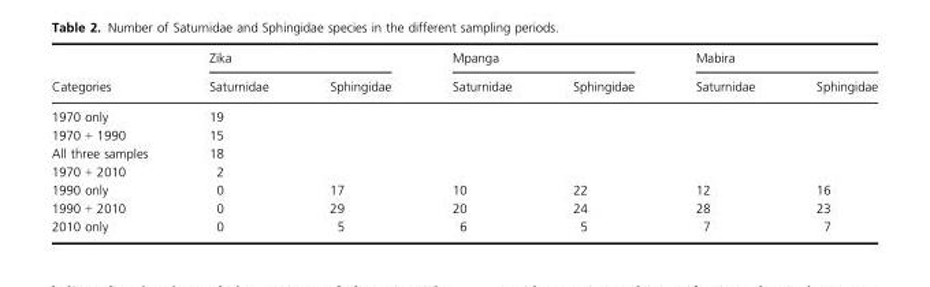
<table><thead><tr><td rowspan="2">Categories</td><td colspan="2">Zika</td><td colspan="2">Mpanga</td><td colspan="2">Mabira</td></tr><tr><td>Saturnidae</td><td>Sphingidae</td><td>Saturnidae</td><td>Sphingidae</td><td>Saturnidae</td><td>Sphingidae</td></tr></thead><tbody><tr><td>1970 only</td><td>19</td><td></td><td></td><td></td><td></td><td></td></tr><tr><td>1970 + 1990</td><td>15</td><td></td><td></td><td></td><td></td><td></td></tr><tr><td>All three samples</td><td>18</td><td></td><td></td><td></td><td></td><td></td></tr><tr><td>1970 + 2010</td><td>2</td><td></td><td></td><td></td><td></td><td></td></tr><tr><td>1990 only</td><td>0</td><td>17</td><td>10</td><td>22</td><td>12</td><td>16</td></tr><tr><td>1990 + 2010</td><td>0</td><td>29</td><td>20</td><td>24</td><td>28</td><td>23</td></tr><tr><td>2010 only</td><td>0</td><td>5</td><td>6</td><td>5</td><td>7</td><td>7</td></tr></tbody></table>